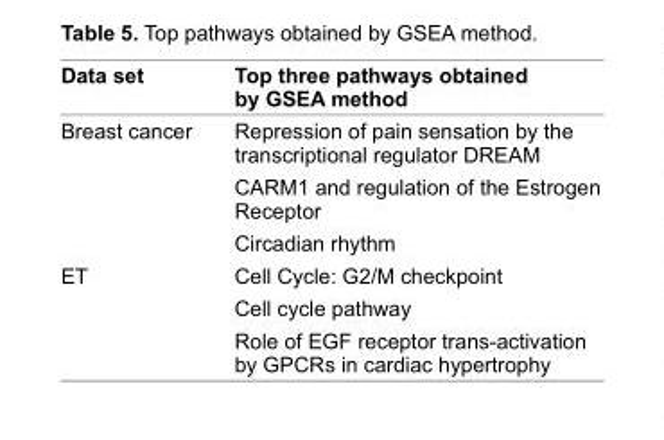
<table><thead><tr><td>Data set</td><td>Top three pathways obtained by GSEA method</td></tr></thead><tbody><tr><td rowspan="3">Breast cancer</td><td>repression of pain sensation by the transcriptional regulator DreAM</td></tr><tr><td>CArM1 and regulation of the estrogen receptor</td></tr><tr><td>Circadian rhythm</td></tr><tr><td rowspan="3">eT</td><td>Cell Cycle: g2/M checkpoint</td></tr><tr><td>Cell cycle pathway</td></tr><tr><td>role of egF receptor trans-activation by gPCrs in cardiac hypertrophy</td></tr></tbody></table>